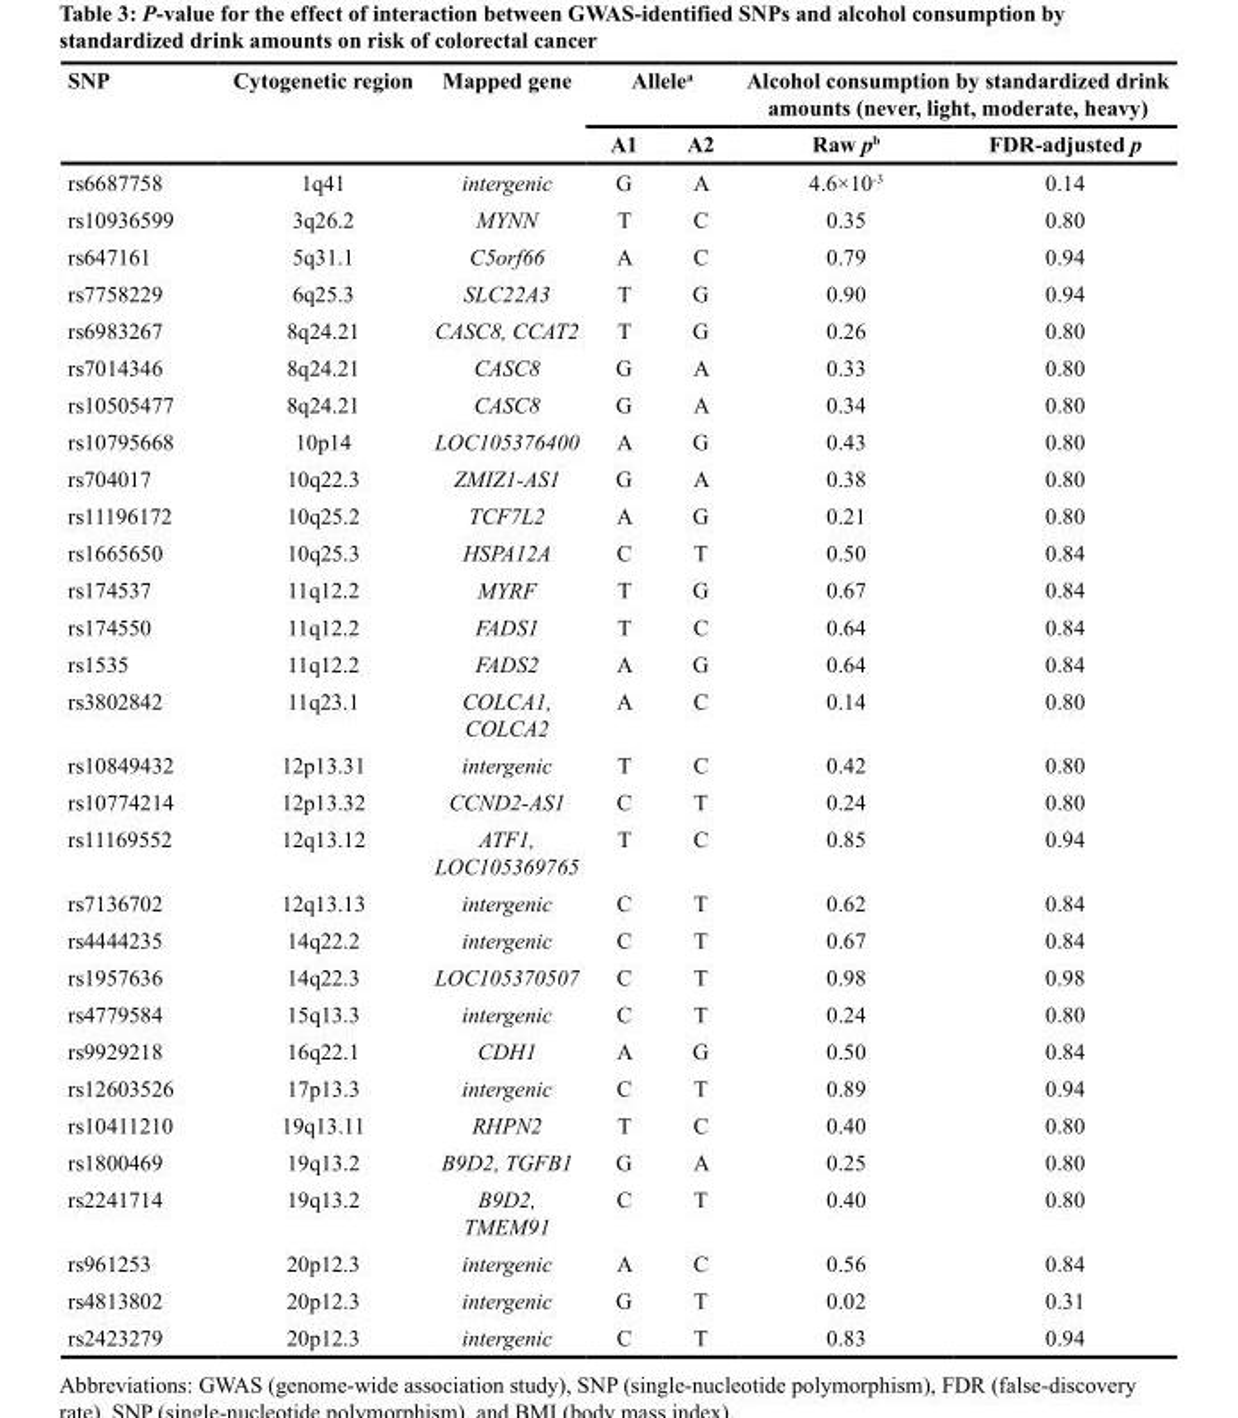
<table><thead><tr><td rowspan="2">SNP</td><td rowspan="2">Cytogenetic region</td><td rowspan="2">Mapped gene</td><td colspan="2">Allele<sup>a</sup></td><td colspan="2">Alcohol consumption by standardized drink amounts (never, light, moderate, heavy)</td></tr><tr><td>A1</td><td>A2</td><td>Raw p<sup>b</sup></td><td>FDR-adjusted p</td></tr></thead><tbody><tr><td>rs6687758</td><td>1q41</td><td>intergenic</td><td>G</td><td>A</td><td>4.6×10<sup>-3</sup></td><td>0.14</td></tr><tr><td>rs10936599</td><td>3q26.2</td><td>MYNN</td><td>T</td><td>C</td><td>0.35</td><td>0.80</td></tr><tr><td>rs647161</td><td>5q31.1</td><td>C5orf66</td><td>A</td><td>C</td><td>0.79</td><td>0.94</td></tr><tr><td>rs7758229</td><td>6q25.3</td><td>SLC22A3</td><td>T</td><td>G</td><td>0.90</td><td>0.94</td></tr><tr><td>rs6983267</td><td>8q24.21</td><td>CASC8, CCAT2</td><td>T</td><td>G</td><td>0.26</td><td>0.80</td></tr><tr><td>rs7014346</td><td>8q24.21</td><td>CASC8</td><td>G</td><td>A</td><td>0.33</td><td>0.80</td></tr><tr><td>rs10505477</td><td>8q24.21</td><td>CASC8</td><td>G</td><td>A</td><td>0.34</td><td>0.80</td></tr><tr><td>rs10795668</td><td>10p14</td><td>LOC105376400</td><td>A</td><td>G</td><td>0.43</td><td>0.80</td></tr><tr><td>rs704017</td><td>10q22.3</td><td>ZMIZ1-AS1</td><td>G</td><td>A</td><td>0.38</td><td>0.80</td></tr><tr><td>rs11196172</td><td>10q25.2</td><td>TCF7L2</td><td>A</td><td>G</td><td>0.21</td><td>0.80</td></tr><tr><td>rs1665650</td><td>10q25.3</td><td>HSPA12A</td><td>C</td><td>T</td><td>0.50</td><td>0.84</td></tr><tr><td>rs174537</td><td>11q12.2</td><td>MYRF</td><td>T</td><td>G</td><td>0.67</td><td>0.84</td></tr><tr><td>rs174550</td><td>11q12.2</td><td>FADS1</td><td>T</td><td>C</td><td>0.64</td><td>0.84</td></tr><tr><td>rs1535</td><td>11q12.2</td><td>FADS2</td><td>A</td><td>G</td><td>0.64</td><td>0.84</td></tr><tr><td>rs3802842</td><td>11q23.1</td><td>COLCA1, COLCA2</td><td>A</td><td>C</td><td>0.14</td><td>0.80</td></tr><tr><td>rs10849432</td><td>12p13.31</td><td>intergenic</td><td>T</td><td>C</td><td>0.42</td><td>0.80</td></tr><tr><td>rs10774214</td><td>12p13.32</td><td>CCND2-AS1</td><td>C</td><td>T</td><td>0.24</td><td>0.80</td></tr><tr><td>rs11169552</td><td>12q13.12</td><td>ATF1, LOC105369765</td><td>T</td><td>C</td><td>0.85</td><td>0.94</td></tr><tr><td>rs7136702</td><td>12q13.13</td><td>intergenic</td><td>C</td><td>T</td><td>0.62</td><td>0.84</td></tr><tr><td>rs4444235</td><td>14q22.2</td><td>intergenic</td><td>C</td><td>T</td><td>0.67</td><td>0.84</td></tr><tr><td>rs1957636</td><td>14q22.3</td><td>LOC105370507</td><td>C</td><td>T</td><td>0.98</td><td>0.98</td></tr><tr><td>rs4779584</td><td>15q13.3</td><td>intergenic</td><td>C</td><td>T</td><td>0.24</td><td>0.80</td></tr><tr><td>rs9929218</td><td>16q22.1</td><td>CDH1</td><td>A</td><td>G</td><td>0.50</td><td>0.84</td></tr><tr><td>rs12603526</td><td>17p13.3</td><td>intergenic</td><td>C</td><td>T</td><td>0.89</td><td>0.94</td></tr><tr><td>rs10411210</td><td>19q13.11</td><td>RHPN2</td><td>T</td><td>C</td><td>0.40</td><td>0.80</td></tr><tr><td>rs1800469</td><td>19q13.2</td><td>B9D2, TGFB1</td><td>G</td><td>A</td><td>0.25</td><td>0.80</td></tr><tr><td>rs2241714</td><td>19q13.2</td><td>B9D2, TMEM91</td><td>C</td><td>T</td><td>0.40</td><td>0.80</td></tr><tr><td>rs961253</td><td>20p12.3</td><td>intergenic</td><td>A</td><td>C</td><td>0.56</td><td>0.84</td></tr><tr><td>rs4813802</td><td>20p12.3</td><td>intergenic</td><td>G</td><td>T</td><td>0.02</td><td>0.31</td></tr><tr><td>rs2423279</td><td>20p12.3</td><td>intergenic</td><td>C</td><td>T</td><td>0.83</td><td>0.94</td></tr></tbody></table>